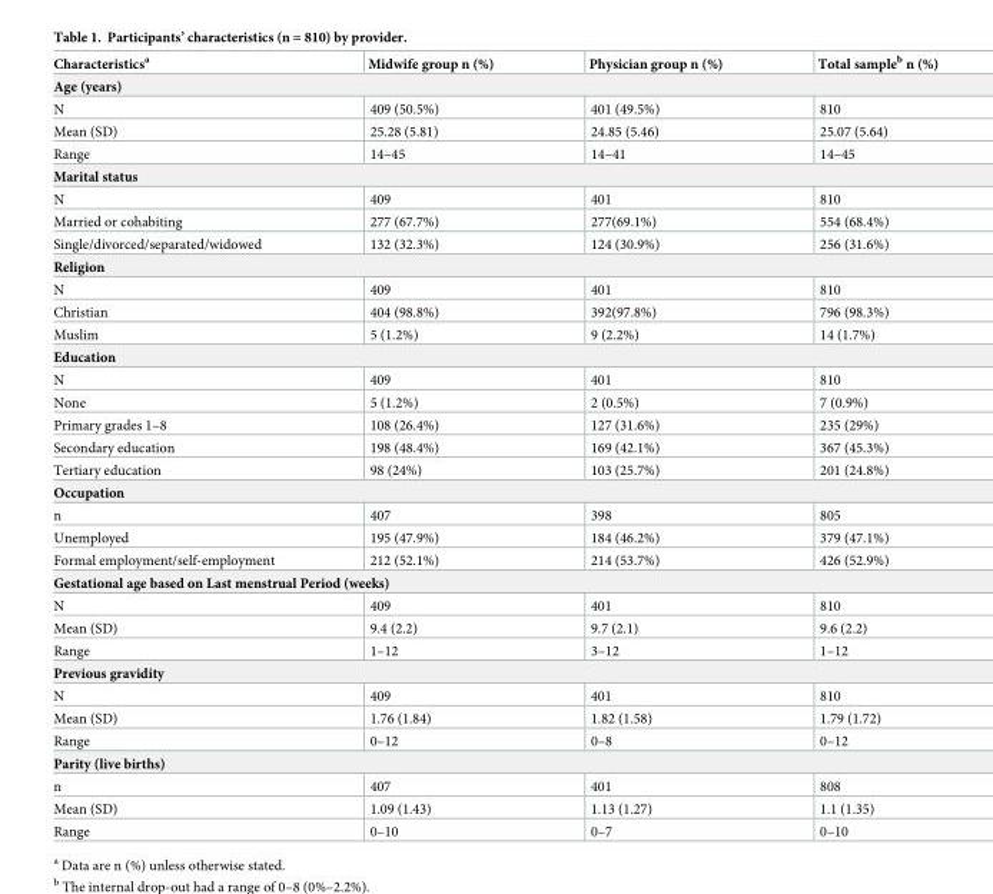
<table><thead><tr><td>Characteristics<sup>a</sup></td><td>Midwife group n (%)</td><td>Physician group n (%)</td><td>Total sample<sup>b</sup> n (%)</td></tr></thead><tbody><tr><td colspan="4">Age (years)</td></tr><tr><td>N</td><td>409 (50.5%)</td><td>401 (49.5%)</td><td>810</td></tr><tr><td>Mean (SD)</td><td>25.28 (5.81)</td><td>24.85 (5.46)</td><td>25.07 (5.64)</td></tr><tr><td>Range</td><td>14–45</td><td>14–41</td><td>14–45</td></tr><tr><td colspan="4">Marital status</td></tr><tr><td>N</td><td>409</td><td>401</td><td>810</td></tr><tr><td>Married or cohabiting</td><td>277 (67.7%)</td><td>277(69.1%)</td><td>554 (68.4%)</td></tr><tr><td>Single/divorced/separated/widowed</td><td>132 (32.3%)</td><td>124 (30.9%)</td><td>256 (31.6%)</td></tr><tr><td colspan="4">Religion</td></tr><tr><td>N</td><td>409</td><td>401</td><td>810</td></tr><tr><td>Christian</td><td>404 (98.8%)</td><td>392(97.8%)</td><td>796 (98.3%)</td></tr><tr><td>Muslim</td><td>5 (1.2%)</td><td>9 (2.2%)</td><td>14 (1.7%)</td></tr><tr><td colspan="4">Education</td></tr><tr><td>N</td><td>409</td><td>401</td><td>810</td></tr><tr><td>None</td><td>5 (1.2%)</td><td>2 (0.5%)</td><td>7 (0.9%)</td></tr><tr><td>Primary grades 1–8</td><td>108 (26.4%)</td><td>127 (31.6%)</td><td>235 (29%)</td></tr><tr><td>Secondary education</td><td>198 (48.4%)</td><td>169 (42.1%)</td><td>367 (45.3%)</td></tr><tr><td>Tertiary education</td><td>98 (24%)</td><td>103 (25.7%)</td><td>201 (24.8%)</td></tr><tr><td colspan="4">Occupation</td></tr><tr><td>n</td><td>407</td><td>398</td><td>805</td></tr><tr><td>Unemployed</td><td>195 (47.9%)</td><td>184 (46.2%)</td><td>379 (47.1%)</td></tr><tr><td>Formal employment/self-employment</td><td>212 (52.1%)</td><td>214 (53.7%)</td><td>426 (52.9%)</td></tr><tr><td colspan="4">Gestational age based on Last menstrual Period (weeks)</td></tr><tr><td>N</td><td>409</td><td>401</td><td>810</td></tr><tr><td>Mean (SD)</td><td>9.4 (2.2)</td><td>9.7 (2.1)</td><td>9.6 (2.2)</td></tr><tr><td>Range</td><td>1–12</td><td>3–12</td><td>1–12</td></tr><tr><td colspan="4">Previous gravidity</td></tr><tr><td>N</td><td>409</td><td>401</td><td>810</td></tr><tr><td>Mean (SD)</td><td>1.76 (1.84)</td><td>1.82 (1.58)</td><td>1.79 (1.72)</td></tr><tr><td>Range</td><td>0–12</td><td>0–8</td><td>0–12</td></tr><tr><td colspan="4">Parity (live births)</td></tr><tr><td>n</td><td>407</td><td>401</td><td>808</td></tr><tr><td>Mean (SD)</td><td>1.09 (1.43)</td><td>1.13 (1.27)</td><td>1.1 (1.35)</td></tr><tr><td>Range</td><td>0–10</td><td>0–7</td><td>0–10</td></tr></tbody></table>